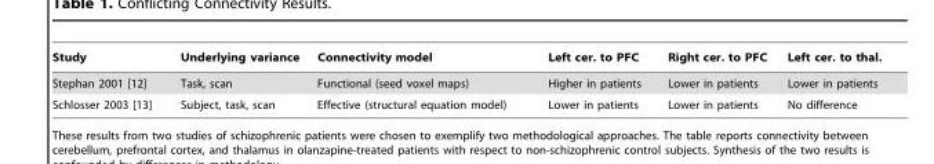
<table><thead><tr><td>Study</td><td>Underlying variance</td><td>Connectivity model</td><td>Left cer. to PFC</td><td>Right cer. to PFC</td><td>Left cer. to thal.</td></tr></thead><tbody><tr><td>Stephan 2001 [12]</td><td>Task, scan</td><td>Functional (seed voxel maps)</td><td>Higher in patients</td><td>Lower in patients</td><td>Lower in patients</td></tr><tr><td>Schlosser 2003 [13]</td><td>Subject, task, scan</td><td>Effective (structural equation model)</td><td>Lower in patients</td><td>Lower in patients</td><td>No difference</td></tr></tbody></table>